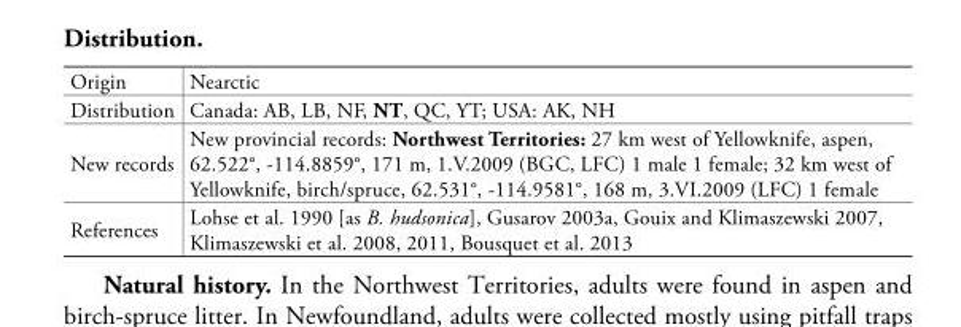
<table><tbody><tr><td>Origin</td><td>Nearctic</td></tr><tr><td>Distribution</td><td>Canada: AB, LB, NF, NT, QC, YT; USA: AK, NH</td></tr><tr><td>New records</td><td>New provincial records: Northwest Territories: 27 km west of Yellowknife, aspen, 62.522°, -114.8859°, 171 m, 1.V.2009 (BGC, LFC) 1 male 1 female; 32 km west of Yellowknife, birch/spruce, 62.531°, -114.9581°, 168 m, 3.VI.2009 (LFC) 1 female</td></tr><tr><td>References</td><td>Lohse et al. 1990 [as B. hudsonica], Gusarov 2003a, Gouix and Klimaszewski 2007, Klimaszewski et al. 2008, 2011, Bousquet et al. 2013</td></tr></tbody></table>